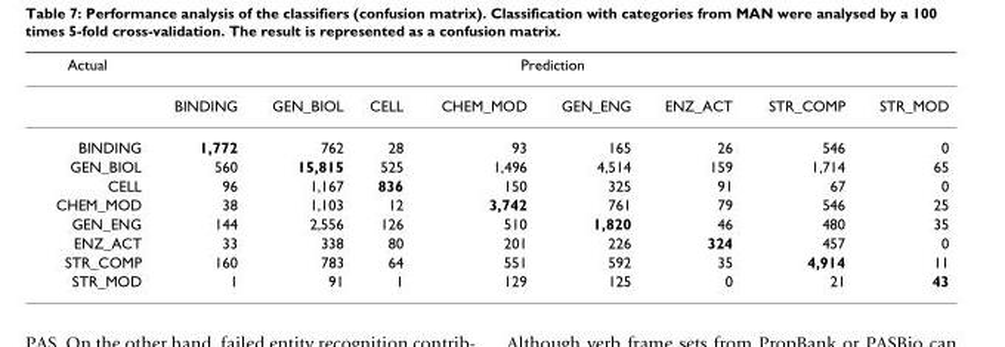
<table><thead><tr><td rowspan="2">Actual</td><td colspan="8">Prediction</td></tr><tr><td>BINDING</td><td>GEN_BIOL</td><td>CELL</td><td>CHEM_MOD</td><td>GEN_ENG</td><td>ENZ_ACT</td><td>STR_COMP</td><td>STR_MOD</td></tr></thead><tbody><tr><td>BINDING</td><td>1,772</td><td>762</td><td>28</td><td>93</td><td>165</td><td>26</td><td>546</td><td>0</td></tr><tr><td>GEN_BIOL</td><td>560</td><td>15,815</td><td>525</td><td>1,496</td><td>4,514</td><td>159</td><td>1,714</td><td>65</td></tr><tr><td>CELL</td><td>96</td><td>1,167</td><td>836</td><td>150</td><td>325</td><td>91</td><td>67</td><td>0</td></tr><tr><td>CHEM_MOD</td><td>38</td><td>1,103</td><td>12</td><td>3,742</td><td>761</td><td>79</td><td>546</td><td>25</td></tr><tr><td>GEN_ENG</td><td>144</td><td>2,556</td><td>126</td><td>510</td><td>1,820</td><td>46</td><td>480</td><td>35</td></tr><tr><td>ENZ_ACT</td><td>33</td><td>338</td><td>80</td><td>201</td><td>226</td><td>324</td><td>457</td><td>0</td></tr><tr><td>STR_COMP</td><td>160</td><td>783</td><td>64</td><td>551</td><td>592</td><td>35</td><td>4,914</td><td>11</td></tr><tr><td>STR_MOD</td><td>1</td><td>91</td><td>1</td><td>129</td><td>125</td><td>0</td><td>21</td><td>43</td></tr></tbody></table>